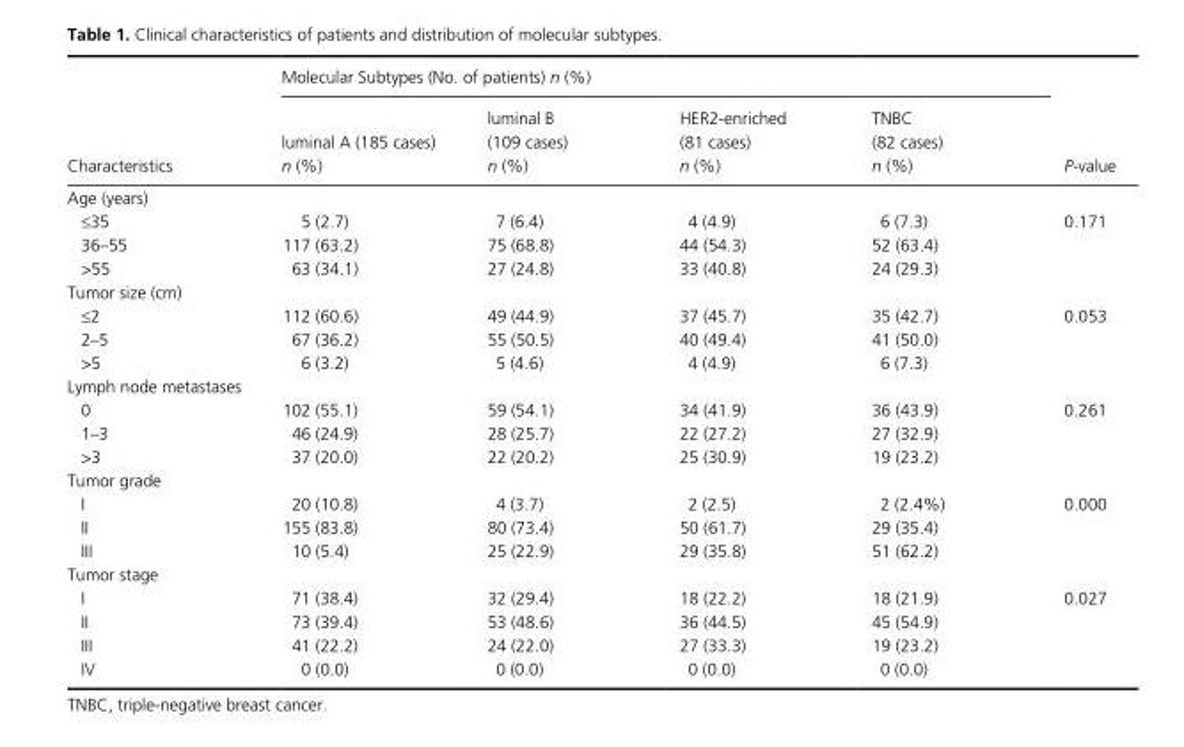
<table><thead><tr><td rowspan="2">Characteristics</td><td colspan="4">Molecular Subtypes (No. of patients) n (%)</td><td rowspan="2">P- value</td></tr><tr><td>luminal A (185 cases) n (%)</td><td>luminal B (109 cases) n (%)</td><td>HER2- enriched (81 cases) n (%)</td><td>TNBC (82 cases) n (%)</td></tr></thead><tbody><tr><td colspan="6">Age (years)</td></tr><tr><td>≤35</td><td>5 (2.7)</td><td>7 (6.4)</td><td>4 (4.9)</td><td>6 (7.3)</td><td>0.171</td></tr><tr><td>36–55</td><td>117 (63.2)</td><td>75 (68.8)</td><td>44 (54.3)</td><td>52 (63.4)</td><td></td></tr><tr><td>&gt;55</td><td>63 (34.1)</td><td>27 (24.8)</td><td>33 (40.8)</td><td>24 (29.3)</td><td></td></tr><tr><td colspan="6">Tumor size (cm)</td></tr><tr><td>≤2</td><td>112 (60.6)</td><td>49 (44.9)</td><td>37 (45.7)</td><td>35 (42.7)</td><td>0.053</td></tr><tr><td>2–5</td><td>67 (36.2)</td><td>55 (50.5)</td><td>40 (49.4)</td><td>41 (50.0)</td><td></td></tr><tr><td>&gt;5</td><td>6 (3.2)</td><td>5 (4.6)</td><td>4 (4.9)</td><td>6 (7.3)</td><td></td></tr><tr><td colspan="6">Lymph node metastases</td></tr><tr><td>0</td><td>102 (55.1)</td><td>59 (54.1)</td><td>34 (41.9)</td><td>36 (43.9)</td><td>0.261</td></tr><tr><td>1–3</td><td>46 (24.9)</td><td>28 (25.7)</td><td>22 (27.2)</td><td>27 (32.9)</td><td></td></tr><tr><td>&gt;3</td><td>37 (20.0)</td><td>22 (20.2)</td><td>25 (30.9)</td><td>19 (23.2)</td><td></td></tr><tr><td colspan="6">Tumor grade</td></tr><tr><td>I</td><td>20 (10.8)</td><td>4 (3.7)</td><td>2 (2.5)</td><td>2 (2.4%)</td><td>0.000</td></tr><tr><td>II</td><td>155 (83.8)</td><td>80 (73.4)</td><td>50 (61.7)</td><td>29 (35.4)</td><td></td></tr><tr><td>III</td><td>10 (5.4)</td><td>25 (22.9)</td><td>29 (35.8)</td><td>51 (62.2)</td><td></td></tr><tr><td colspan="6">Tumor stage</td></tr><tr><td>I</td><td>71 (38.4)</td><td>32 (29.4)</td><td>18 (22.2)</td><td>18 (21.9)</td><td>0.027</td></tr><tr><td>II</td><td>73 (39.4)</td><td>53 (48.6)</td><td>36 (44.5)</td><td>45 (54.9)</td><td></td></tr><tr><td>III</td><td>41 (22.2)</td><td>24 (22.0)</td><td>27 (33.3)</td><td>19 (23.2)</td><td></td></tr><tr><td>IV</td><td>0 (0.0)</td><td>0 (0.0)</td><td>0 (0.0)</td><td>0 (0.0)</td><td></td></tr></tbody></table>